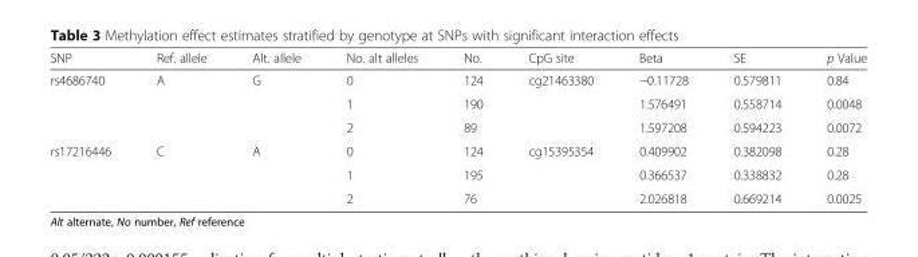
<table><thead><tr><td>SNP</td><td>Ref. allele</td><td>Alt. allele</td><td>No. alt alleles</td><td>No.</td><td>CpG site</td><td>Beta</td><td>SE</td><td>p Value</td></tr></thead><tbody><tr><td rowspan="3">rs4686740</td><td rowspan="3">A</td><td rowspan="3">G</td><td>0</td><td>124</td><td rowspan="3">cg21463380</td><td>−0.11728</td><td>0.579811</td><td>0.84</td></tr><tr><td>1</td><td>190</td><td>1.576491</td><td>0.558714</td><td>0.0048</td></tr><tr><td>2</td><td>89</td><td>1.597208</td><td>0.594223</td><td>0.0072</td></tr><tr><td rowspan="3">rs17216446</td><td rowspan="3">C</td><td rowspan="3">A</td><td>0</td><td>124</td><td rowspan="3">cg15395354</td><td>0.409902</td><td>0.382098</td><td>0.28</td></tr><tr><td>1</td><td>195</td><td>0.366537</td><td>0.338832</td><td>0.28</td></tr><tr><td>2</td><td>76</td><td>2.026818</td><td>0.669214</td><td>0.0025</td></tr></tbody></table>